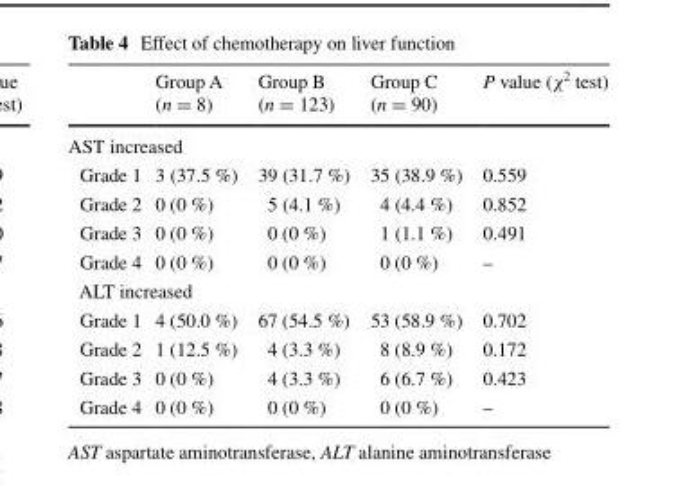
<table><thead><tr><td></td><td>Group A (n = 8)</td><td>Group B (n = 123)</td><td>Group C (n = 90)</td><td>P value (χ<sup>2</sup> test)</td></tr></thead><tbody><tr><td colspan="5">AST increased</td></tr><tr><td>Grade 1</td><td>3 (37.5 %)</td><td>39 (31.7 %)</td><td>35 (38.9 %)</td><td>0.559</td></tr><tr><td>Grade 2</td><td>0 (0 %)</td><td>5 (4.1 %)</td><td>4 (4.4 %)</td><td>0.852</td></tr><tr><td>Grade 3</td><td>0 (0 %)</td><td>0 (0 %)</td><td>1 (1.1 %)</td><td>0.491</td></tr><tr><td>Grade 4</td><td>0 (0 %)</td><td>0 (0 %)</td><td>0 (0 %)</td><td>–</td></tr><tr><td colspan="5">ALT increased</td></tr><tr><td>Grade 1</td><td>4 (50.0 %)</td><td>67 (54.5 %)</td><td>53 (58.9 %)</td><td>0.702</td></tr><tr><td>Grade 2</td><td>1 (12.5 %)</td><td>4 (3.3 %)</td><td>8 (8.9 %)</td><td>0.172</td></tr><tr><td>Grade 3</td><td>0 (0 %)</td><td>4 (3.3 %)</td><td>6 (6.7 %)</td><td>0.423</td></tr><tr><td>Grade 4</td><td>0 (0 %)</td><td>0 (0 %)</td><td>0 (0 %)</td><td>–</td></tr></tbody></table>